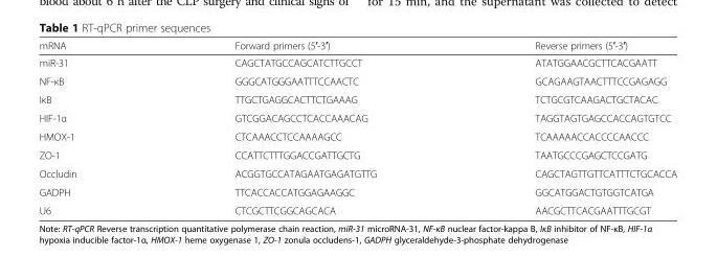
<table><thead><tr><td>mRNA</td><td>Forward primers (5′-3′)</td><td>Reverse primers (5′-3′)</td></tr></thead><tbody><tr><td>miR-31</td><td>CAGCTATGCCAGCATCTTGCCT</td><td>ATATGGAACGCTTCACGAATT</td></tr><tr><td>NF-κB</td><td>GGGCATGGGAATTTCCAACTC</td><td>GCAGAAGTAACTTTCCGAGAGG</td></tr><tr><td>IκB</td><td>TTGCTGAGGCACTTCTGAAAG</td><td>TCTGCGTCAAGACTGCTACAC</td></tr><tr><td>HIF-1α</td><td>GTCGGACAGCCTCACCAAACAG</td><td>TAGGTAGTGAGCCACCAGTGTCC</td></tr><tr><td>HMOX-1</td><td>CTCAAACCTCCAAAAGCC</td><td>TCAAAAACCACCCCAACCC</td></tr><tr><td>ZO-1</td><td>CCATTCTTTGGACCGATTGCTG</td><td>TAATGCCCGAGCTCCGATG</td></tr><tr><td>Occludin</td><td>ACGGTGCCATAGAATGAGATGTTG</td><td>CAGCTAGTTGTTCATTTCTGCACCA</td></tr><tr><td>GADPH</td><td>TTCACCACCATGGAGAAGGC</td><td>GGCATGGACTGTGGTCATGA</td></tr><tr><td>U6</td><td>CTCGCTTCGGCAGCACA</td><td>AACGCTTCACGAATTTGCGT</td></tr></tbody></table>